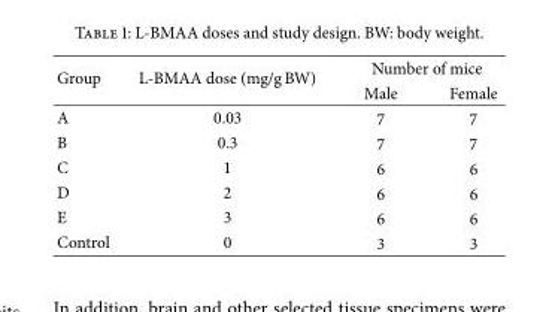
<table><thead><tr><td rowspan="2">Group</td><td rowspan="2">L-BMAA dose (mg/g BW)</td><td colspan="2">Number of mice</td></tr><tr><td>Male</td><td>Female</td></tr></thead><tbody><tr><td>A</td><td>0.03</td><td>7</td><td>7</td></tr><tr><td>B</td><td>0.3</td><td>7</td><td>7</td></tr><tr><td>C</td><td>1</td><td>6</td><td>6</td></tr><tr><td>D</td><td>2</td><td>6</td><td>6</td></tr><tr><td>E</td><td>3</td><td>6</td><td>6</td></tr><tr><td>Control</td><td>0</td><td>3</td><td>3</td></tr></tbody></table>